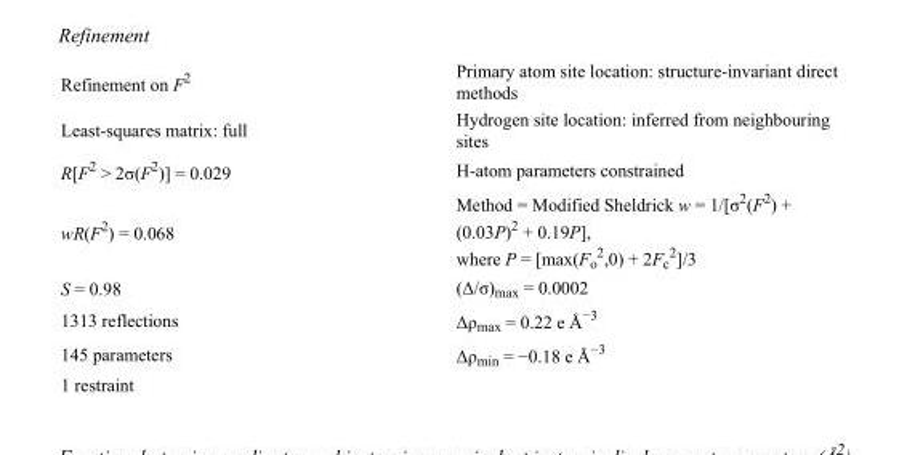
<table><tbody><tr><td>Refinement on F<sup>2</sup></td><td>Primary atom site location: structure-invariant direct methods</td></tr><tr><td>Least-squares matrix: full</td><td>Hydrogen site location: inferred from neighbouring sites</td></tr><tr><td>R[F<sup>2</sup> &gt; 2σ(F<sup>2</sup>)] = 0.029</td><td>H-atom parameters constrained</td></tr><tr><td>wR(F<sup>2</sup>) = 0.068</td><td>Method = Modified Sheldrick w = 1/[σ<sup>2</sup>(F<sup>2</sup>) + (0.03P)<sup>2</sup> + 0.19P], where P = [max(F<sub>o</sub> <sup>2</sup>,0) + 2F<sub>c</sub> <sup>2</sup>]/3</td></tr><tr><td>S = 0.98</td><td>(Δ/σ)<sub>max</sub> = 0.0002</td></tr><tr><td>1313 reflections</td><td>Δρ<sub>max</sub> = 0.22 e Å<sup>−3</sup></td></tr><tr><td>145 parameters</td><td>Δρ<sub>min</sub> = −0.18 e Å<sup>−3</sup></td></tr><tr><td>1 restraint</td><td></td></tr></tbody></table>